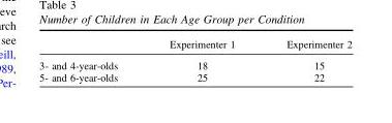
<table><thead><tr><td></td><td>Experimenter 1</td><td>Experimenter 2</td></tr></thead><tbody><tr><td>3- and 4-year-olds</td><td>18</td><td>15</td></tr><tr><td>5- and 6-year-olds</td><td>25</td><td>22</td></tr></tbody></table>